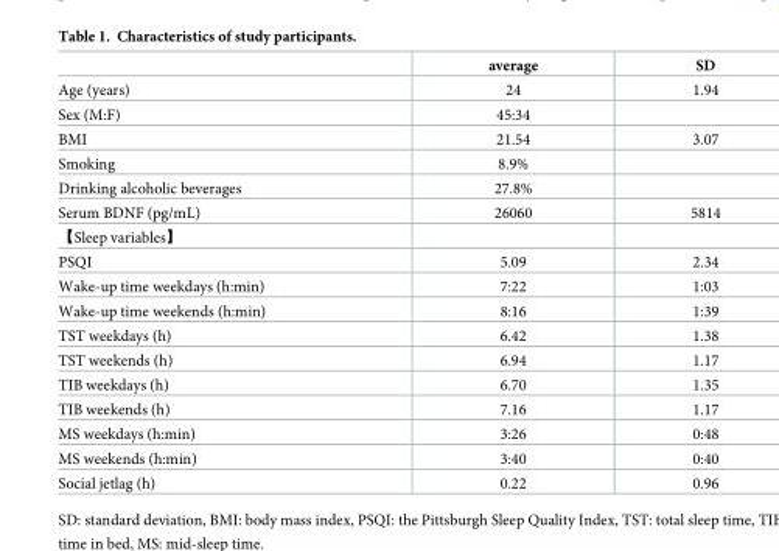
<table><thead><tr><td></td><td>average</td><td>SD</td></tr></thead><tbody><tr><td>Age (years)</td><td>24</td><td>1.94</td></tr><tr><td>Sex (M:F)</td><td>45:34</td><td></td></tr><tr><td>BMI</td><td>21.54</td><td>3.07</td></tr><tr><td>Smoking</td><td>8.9%</td><td></td></tr><tr><td>Drinking alcoholic beverages</td><td>27.8%</td><td></td></tr><tr><td>Serum BDNF (pg/mL)</td><td>26060</td><td>5814</td></tr><tr><td colspan="3">【Sleep variables】</td></tr><tr><td>PSQI</td><td>5.09</td><td>2.34</td></tr><tr><td>Wake-up time weekdays (h:min)</td><td>7:22</td><td>1:03</td></tr><tr><td>Wake-up time weekends (h:min)</td><td>8:16</td><td>1:39</td></tr><tr><td>TST weekdays (h)</td><td>6.42</td><td>1.38</td></tr><tr><td>TST weekends (h)</td><td>6.94</td><td>1.17</td></tr><tr><td>TIB weekdays (h)</td><td>6.70</td><td>1.35</td></tr><tr><td>TIB weekends (h)</td><td>7.16</td><td>1.17</td></tr><tr><td>MS weekdays (h:min)</td><td>3:26</td><td>0:48</td></tr><tr><td>MS weekends (h:min)</td><td>3:40</td><td>0:40</td></tr><tr><td>Social jetlag (h)</td><td>0.22</td><td>0.96</td></tr></tbody></table>